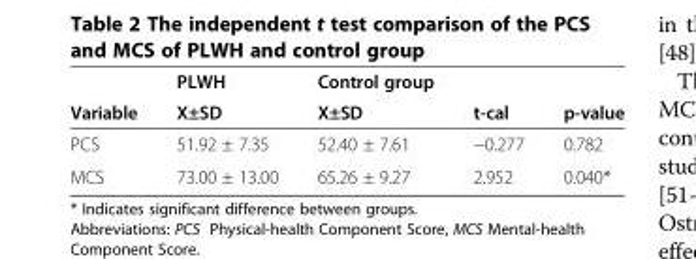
<table><thead><tr><td rowspan="2">Variable</td><td rowspan="2">PLWH X±SD</td><td rowspan="2">Control group X±SD</td><td rowspan="2">t-cal</td><td rowspan="2">p-value</td></tr><tr></tr></thead><tbody><tr><td>PCS</td><td>51.92 ± 7.35</td><td>52.40 ± 7.61</td><td>−0.277</td><td>0.782</td></tr><tr><td>MCS</td><td>73.00 ± 13.00</td><td>65.26 ± 9.27</td><td>2.952</td><td>0.040*</td></tr></tbody></table>